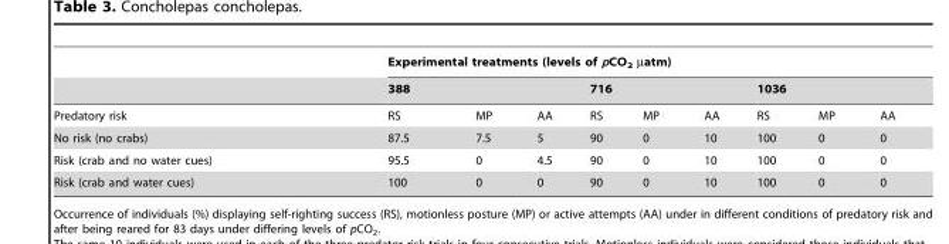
<table><thead><tr><td rowspan="3">Predatory risk</td><td colspan="9">Experimental treatments (levels of pCO<sub>2</sub> µatm)</td></tr><tr><td colspan="3">388</td><td colspan="3">716</td><td colspan="3">1036</td></tr><tr><td>RS</td><td>MP</td><td>AA</td><td>RS</td><td>MP</td><td>AA</td><td>RS</td><td>MP</td><td>AA</td></tr></thead><tbody><tr><td>No risk (no crabs)</td><td>87.5</td><td>7.5</td><td>5</td><td>90</td><td>0</td><td>10</td><td>100</td><td>0</td><td>0</td></tr><tr><td>Risk (crab and no water cues)</td><td>95.5</td><td>0</td><td>4.5</td><td>90</td><td>0</td><td>10</td><td>100</td><td>0</td><td>0</td></tr><tr><td>Risk (crab and water cues)</td><td>100</td><td>0</td><td>0</td><td>90</td><td>0</td><td>10</td><td>100</td><td>0</td><td>0</td></tr></tbody></table>